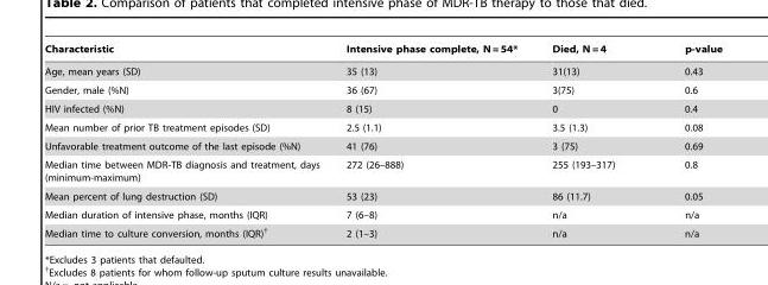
<table><thead><tr><td>Characteristic</td><td>Intensive phase complete, N = 54*</td><td>Died, N = 4</td><td>p-value</td></tr></thead><tbody><tr><td>Age, mean years (SD)</td><td>35 (13)</td><td>31(13)</td><td>0.43</td></tr><tr><td>Gender, male (%N)</td><td>36 (67)</td><td>3(75)</td><td>0.6</td></tr><tr><td>HIV infected (%N)</td><td>8 (15)</td><td>0</td><td>0.4</td></tr><tr><td>Mean number of prior TB treatment episodes (SD)</td><td>2.5 (1.1)</td><td>3.5 (1.3)</td><td>0.08</td></tr><tr><td>Unfavorable treatment outcome of the last episode (%N)</td><td>41 (76)</td><td>3 (75)</td><td>0.69</td></tr><tr><td>Median time between MDR-TB diagnosis and treatment, days (minimum-maximum)</td><td>272 (26–888)</td><td>255 (193–317)</td><td>0.8</td></tr><tr><td>Mean percent of lung destruction (SD)</td><td>53 (23)</td><td>86 (11.7)</td><td>0.05</td></tr><tr><td>Median duration of intensive phase, months (IQR)</td><td>7 (6–8)</td><td>n/a</td><td>n/a</td></tr><tr><td>Median time to culture conversion, months (IQR)†</td><td>2 (1–3)</td><td>n/a</td><td>n/a</td></tr></tbody></table>